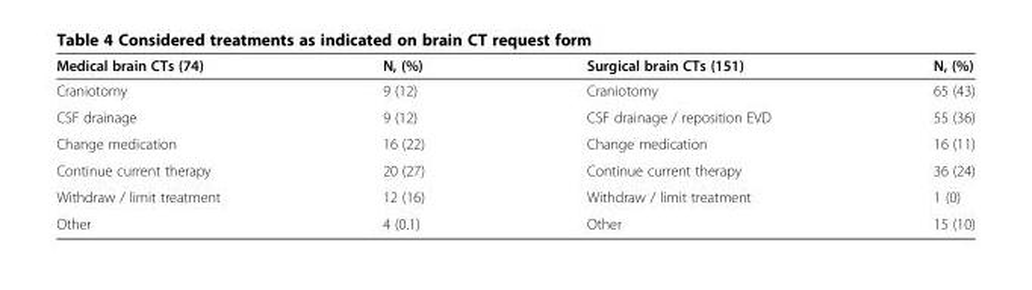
<table><thead><tr><td>Medical brain CTs (74)</td><td>N, (%)</td><td>Surgical brain CTs (151)</td><td>N, (%)</td></tr></thead><tbody><tr><td>Craniotomy</td><td>9 (12)</td><td>Craniotomy</td><td>65 (43)</td></tr><tr><td>CSF drainage</td><td>9 (12)</td><td>CSF drainage / reposition EVD</td><td>55 (36)</td></tr><tr><td>Change medication</td><td>16 (22)</td><td>Change medication</td><td>16 (11)</td></tr><tr><td>Continue current therapy</td><td>20 (27)</td><td>Continue current therapy</td><td>36 (24)</td></tr><tr><td>Withdraw / limit treatment</td><td>12 (16)</td><td>Withdraw / limit treatment</td><td>1 (0)</td></tr><tr><td>Other</td><td>4 (0.1)</td><td>Other</td><td>15 (10)</td></tr></tbody></table>